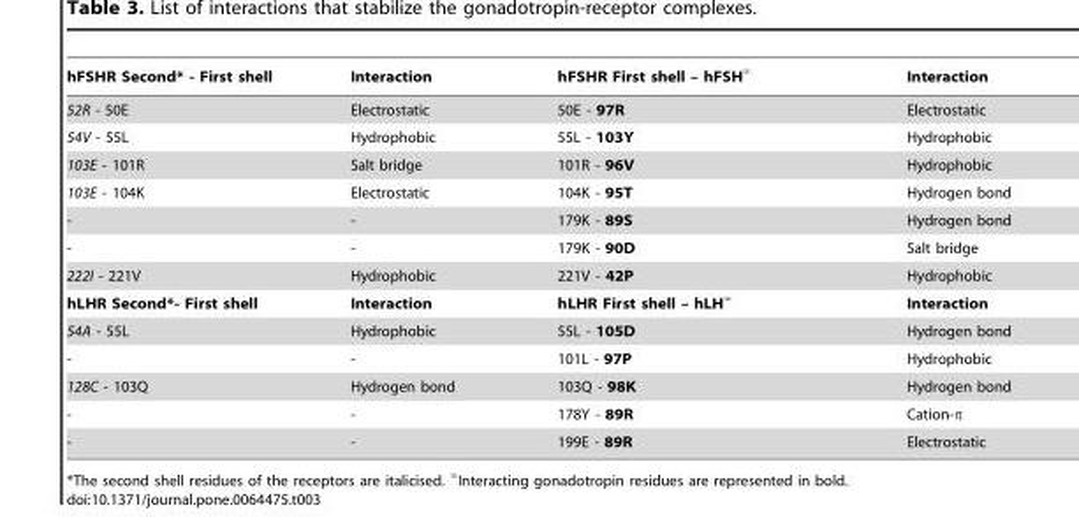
<table><thead><tr><td>hFSHR Second* - First shell</td><td>Interaction</td><td>hFSHR First shell – hFSH‘</td><td>Interaction</td></tr></thead><tbody><tr><td>52R - 50E</td><td>Electrostatic</td><td>50E - 97R</td><td>Electrostatic</td></tr><tr><td>54V - 55L</td><td>Hydrophobic</td><td>55L - 103Y</td><td>Hydrophobic</td></tr><tr><td>103E - 101R</td><td>Salt bridge</td><td>101R - 96V</td><td>Hydrophobic</td></tr><tr><td>103E - 104K</td><td>Electrostatic</td><td>104K - 95T</td><td>Hydrogen bond</td></tr><tr><td>-</td><td>-</td><td>179K - 89S</td><td>Hydrogen bond</td></tr><tr><td>-</td><td>-</td><td>179K - 90D</td><td>Salt bridge</td></tr><tr><td>222I - 221V</td><td>Hydrophobic</td><td>221V - 42P</td><td>Hydrophobic</td></tr><tr><td>hLHR Second*- First shell</td><td>Interaction</td><td>hLHR First shell – hLH‘</td><td>Interaction</td></tr><tr><td>54A - 55L</td><td>Hydrophobic</td><td>55L - 105D</td><td>Hydrogen bond</td></tr><tr><td>-</td><td>-</td><td>101L - 97P</td><td>Hydrophobic</td></tr><tr><td>128C - 103Q</td><td>Hydrogen bond</td><td>103Q - 98K</td><td>Hydrogen bond</td></tr><tr><td>-</td><td>-</td><td>178Y - 89R</td><td>Cation-π</td></tr><tr><td>-</td><td>-</td><td>199E - 89R</td><td>Electrostatic</td></tr></tbody></table>